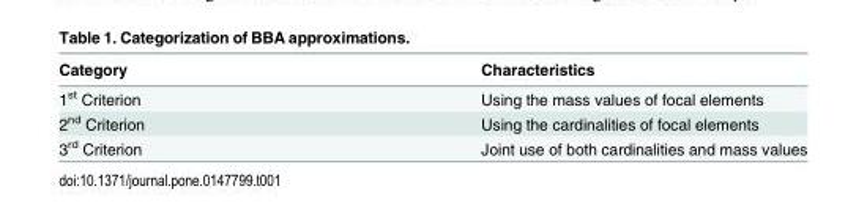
<table><thead><tr><td>Category</td><td>Characteristics</td></tr></thead><tbody><tr><td>1<sup>st</sup> Criterion</td><td>Using the mass values of focal elements</td></tr><tr><td>2<sup>nd</sup> Criterion</td><td>Using the cardinalities of focal elements</td></tr><tr><td>3<sup>rd</sup> Criterion</td><td>Joint use of both cardinalities and mass values</td></tr></tbody></table>